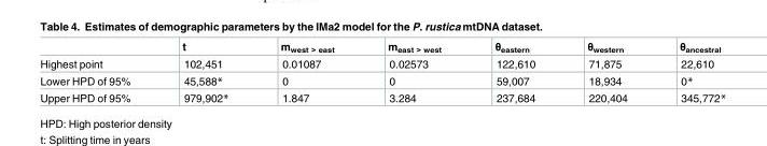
<table><thead><tr><td></td><td>t</td><td>m<sub>west &gt; east</sub></td><td>m<sub>east &gt; west</sub></td><td>θ<sub>eastern</sub></td><td>θ<sub>western</sub></td><td>θ<sub>ancestral</sub></td></tr></thead><tbody><tr><td>Highest point</td><td>102,451</td><td>0.01087</td><td>0.02573</td><td>122,610</td><td>71,875</td><td>22,610</td></tr><tr><td>Lower HPD of 95%</td><td>45,588*</td><td>0</td><td>0</td><td>59,007</td><td>18,934</td><td>0*</td></tr><tr><td>Upper HPD of 95%</td><td>979,902*</td><td>1.847</td><td>3.284</td><td>237,684</td><td>220,404</td><td>345,772*</td></tr></tbody></table>